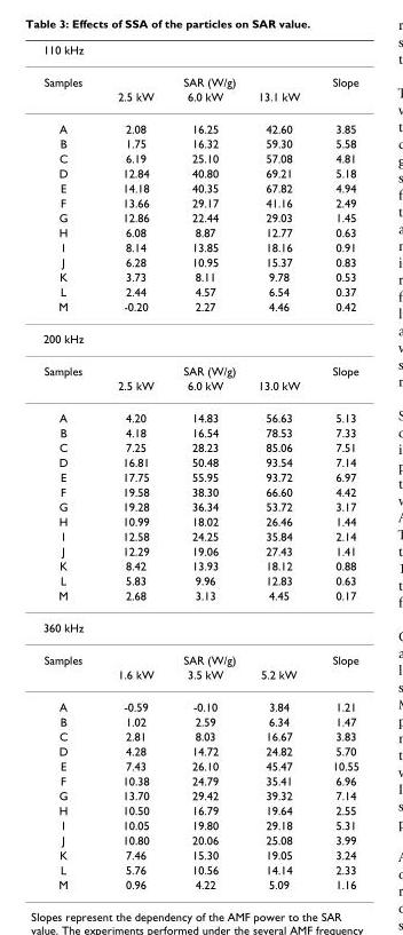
<table><thead><tr><td>110 kHz</td><td></td><td></td><td></td><td></td></tr></thead><tbody><tr><td rowspan="2">Samples</td><td colspan="3">SAR (W/g)</td><td>Slope</td></tr><tr><td>2.5 kW</td><td>6.0 kW</td><td>13.1 kW</td><td></td></tr><tr><td>A</td><td>2.08</td><td>16.25</td><td>42.60</td><td>3.85</td></tr><tr><td>B</td><td>1.75</td><td>16.32</td><td>59.30</td><td>5.58</td></tr><tr><td>C</td><td>6.19</td><td>25.10</td><td>57.08</td><td>4.81</td></tr><tr><td>D</td><td>12.84</td><td>40.80</td><td>69.21</td><td>5.18</td></tr><tr><td>E</td><td>14.18</td><td>40.35</td><td>67.82</td><td>4.94</td></tr><tr><td>F</td><td>13.66</td><td>29.17</td><td>41.16</td><td>2.49</td></tr><tr><td>G</td><td>12.86</td><td>22.44</td><td>29.03</td><td>1.45</td></tr><tr><td>H</td><td>6.08</td><td>8.87</td><td>12.77</td><td>0.63</td></tr><tr><td>I</td><td>8.14</td><td>13.85</td><td>18.16</td><td>0.91</td></tr><tr><td>J</td><td>6.28</td><td>10.95</td><td>15.37</td><td>0.83</td></tr><tr><td>K</td><td>3.73</td><td>8.11</td><td>9.78</td><td>0.53</td></tr><tr><td>L</td><td>2.44</td><td>4.57</td><td>6.54</td><td>0.37</td></tr><tr><td>M</td><td>-0.20</td><td>2.27</td><td>4.46</td><td>0.42</td></tr><tr><td colspan="5">200 kHz</td></tr><tr><td rowspan="2">Samples</td><td colspan="3">SAR (W/g)</td><td>Slope</td></tr><tr><td>2.5 kW</td><td>6.0 kW</td><td>13.0 kW</td><td></td></tr><tr><td>A</td><td>4.20</td><td>14.83</td><td>56.63</td><td>5.13</td></tr><tr><td>B</td><td>4.18</td><td>16.54</td><td>78.53</td><td>7.33</td></tr><tr><td>C</td><td>7.25</td><td>28.23</td><td>85.06</td><td>7.51</td></tr><tr><td>D</td><td>16.81</td><td>50.48</td><td>93.54</td><td>7.14</td></tr><tr><td>E</td><td>17.75</td><td>55.95</td><td>93.72</td><td>6.97</td></tr><tr><td>F</td><td>19.58</td><td>38.30</td><td>66.60</td><td>4.42</td></tr><tr><td>G</td><td>19.28</td><td>36.34</td><td>53.72</td><td>3.17</td></tr><tr><td>H</td><td>10.99</td><td>18.02</td><td>26.46</td><td>1.44</td></tr><tr><td>I</td><td>12.58</td><td>24.25</td><td>35.84</td><td>2.14</td></tr><tr><td>J</td><td>12.29</td><td>19.06</td><td>27.43</td><td>1.41</td></tr><tr><td>K</td><td>8.42</td><td>13.93</td><td>18.12</td><td>0.88</td></tr><tr><td>L</td><td>5.83</td><td>9.96</td><td>12.83</td><td>0.63</td></tr><tr><td>M</td><td>2.68</td><td>3.13</td><td>4.45</td><td>0.17</td></tr><tr><td colspan="5">360 kHz</td></tr><tr><td rowspan="2">Samples</td><td colspan="3">SAR (W/g)</td><td>Slope</td></tr><tr><td>1.6 kW</td><td>3.5 kW</td><td>5.2 kW</td><td></td></tr><tr><td>A</td><td>-0.59</td><td>-0.10</td><td>3.84</td><td>1.21</td></tr><tr><td>B</td><td>1.02</td><td>2.59</td><td>6.34</td><td>1.47</td></tr><tr><td>C</td><td>2.81</td><td>8.03</td><td>16.67</td><td>3.83</td></tr><tr><td>D</td><td>4.28</td><td>14.72</td><td>24.82</td><td>5.70</td></tr><tr><td>E</td><td>7.43</td><td>26.10</td><td>45.47</td><td>10.55</td></tr><tr><td>F</td><td>10.38</td><td>24.79</td><td>35.41</td><td>6.96</td></tr><tr><td>G</td><td>13.70</td><td>29.42</td><td>39.32</td><td>7.14</td></tr><tr><td>H</td><td>10.50</td><td>16.79</td><td>19.64</td><td>2.55</td></tr><tr><td>I</td><td>10.05</td><td>19.80</td><td>29.18</td><td>5.31</td></tr><tr><td>J</td><td>10.80</td><td>20.06</td><td>25.08</td><td>3.99</td></tr><tr><td>K</td><td>7.46</td><td>15.30</td><td>19.05</td><td>3.24</td></tr><tr><td>L</td><td>5.76</td><td>10.56</td><td>14.14</td><td>2.33</td></tr><tr><td>M</td><td>0.96</td><td>4.22</td><td>5.09</td><td>1.16</td></tr></tbody></table>